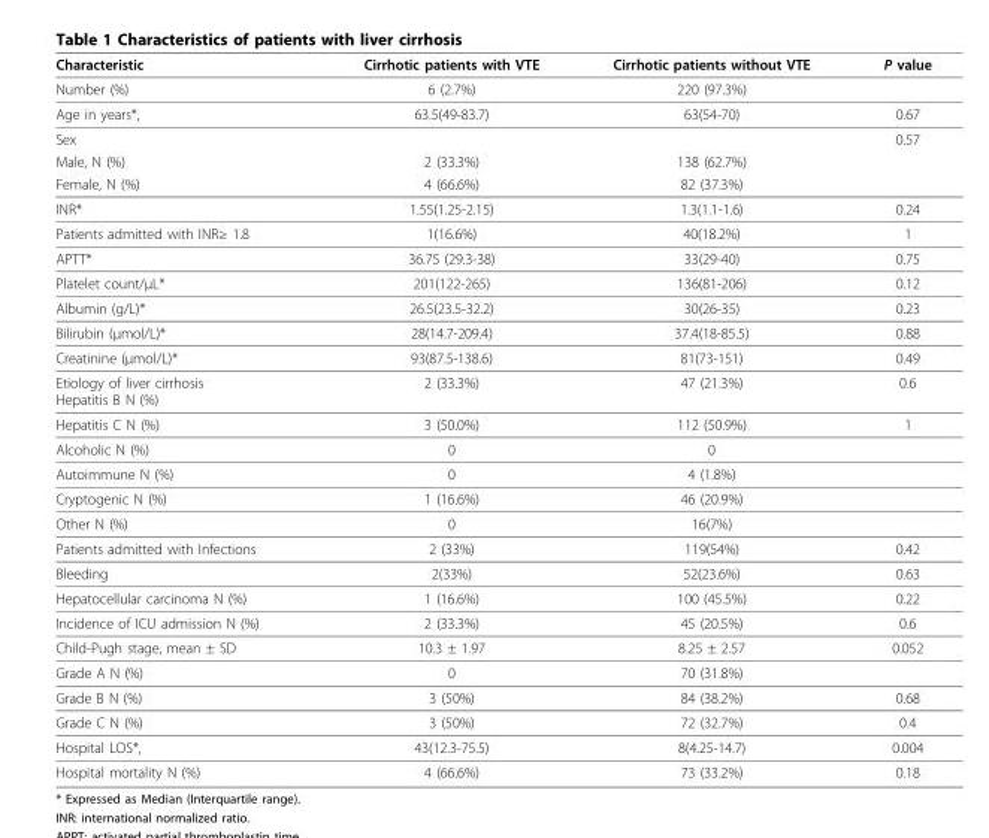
<table><thead><tr><td>Characteristic</td><td>Cirrhotic patients with VTE</td><td>Cirrhotic patients without VTE</td><td>P value</td></tr></thead><tbody><tr><td>Number (%)</td><td>6 (2.7%)</td><td>220 (97.3%)</td><td></td></tr><tr><td>Age in years*,</td><td>63.5(49-83.7)</td><td>63(54-70)</td><td>0.67</td></tr><tr><td>Sex</td><td></td><td></td><td>0.57</td></tr><tr><td>Male, N (%)</td><td>2 (33.3%)</td><td>138 (62.7%)</td><td></td></tr><tr><td>Female, N (%)</td><td>4 (66.6%)</td><td>82 (37.3%)</td><td></td></tr><tr><td>INR*</td><td>1.55(1.25-2.15)</td><td>1.3(1.1-1.6)</td><td>0.24</td></tr><tr><td>Patients admitted with INR≥ 1.8</td><td>1(16.6%)</td><td>40(18.2%)</td><td>1</td></tr><tr><td>APTT*</td><td>36.75 (29.3-38)</td><td>33(29-40)</td><td>0.75</td></tr><tr><td>Platelet count/μL*</td><td>201(122-265)</td><td>136(81-206)</td><td>0.12</td></tr><tr><td>Albumin (g/L)*</td><td>26.5(23.5-32.2)</td><td>30(26-35)</td><td>0.23</td></tr><tr><td>Bilirubin (μmol/L)*</td><td>28(14.7-209.4)</td><td>37.4(18-85.5)</td><td>0.88</td></tr><tr><td>Creatinine (μmol/L)*</td><td>93(87.5-138.6)</td><td>81(73-151)</td><td>0.49</td></tr><tr><td>Etiology of liver cirrhosis Hepatitis B N (%)</td><td>2 (33.3%)</td><td>47 (21.3%)</td><td>0.6</td></tr><tr><td>Hepatitis C N (%)</td><td>3 (50.0%)</td><td>112 (50.9%)</td><td>1</td></tr><tr><td>Alcoholic N (%)</td><td>0</td><td>0</td><td></td></tr><tr><td>Autoimmune N (%)</td><td>0</td><td>4 (1.8%)</td><td></td></tr><tr><td>Cryptogenic N (%)</td><td>1 (16.6%)</td><td>46 (20.9%)</td><td></td></tr><tr><td>Other N (%)</td><td>0</td><td>16(7%)</td><td></td></tr><tr><td>Patients admitted with Infections</td><td>2 (33%)</td><td>119(54%)</td><td>0.42</td></tr><tr><td>Bleeding</td><td>2(33%)</td><td>52(23.6%)</td><td>0.63</td></tr><tr><td>Hepatocellular carcinoma N (%)</td><td>1 (16.6%)</td><td>100 (45.5%)</td><td>0.22</td></tr><tr><td>Incidence of ICU admission N (%)</td><td>2 (33.3%)</td><td>45 (20.5%)</td><td>0.6</td></tr><tr><td>Child-Pugh stage, mean ± SD</td><td>10.3 ± 1.97</td><td>8.25 ± 2.57</td><td>0.052</td></tr><tr><td>Grade A N (%)</td><td>0</td><td>70 (31.8%)</td><td></td></tr><tr><td>Grade B N (%)</td><td>3 (50%)</td><td>84 (38.2%)</td><td>0.68</td></tr><tr><td>Grade C N (%)</td><td>3 (50%)</td><td>72 (32.7%)</td><td>0.4</td></tr><tr><td>Hospital LOS*,</td><td>43(12.3-75.5)</td><td>8(4.25-14.7)</td><td>0.004</td></tr><tr><td>Hospital mortality N (%)</td><td>4 (66.6%)</td><td>73 (33.2%)</td><td>0.18</td></tr></tbody></table>